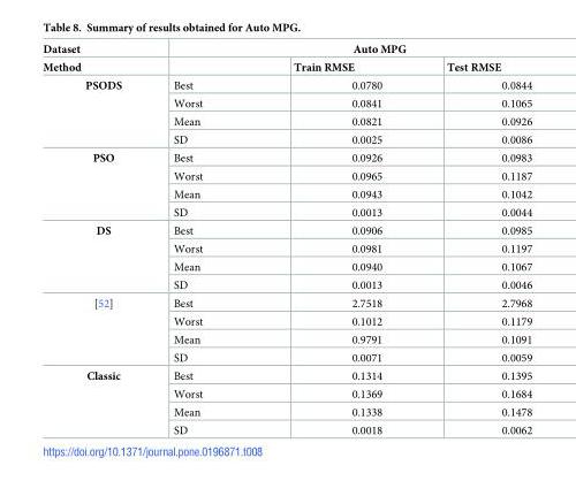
<table><thead><tr><td rowspan="2">Dataset Method</td><td colspan="3">Auto MPG</td></tr><tr><td></td><td>Train RMSE</td><td>Test RMSE</td></tr></thead><tbody><tr><td rowspan="4">PSODS</td><td>Best</td><td>0.0780</td><td>0.0844</td></tr><tr><td>Worst</td><td>0.0841</td><td>0.1065</td></tr><tr><td>Mean</td><td>0.0821</td><td>0.0926</td></tr><tr><td>SD</td><td>0.0025</td><td>0.0086</td></tr><tr><td rowspan="4">PSO</td><td>Best</td><td>0.0926</td><td>0.0983</td></tr><tr><td>Worst</td><td>0.0965</td><td>0.1187</td></tr><tr><td>Mean</td><td>0.0943</td><td>0.1042</td></tr><tr><td>SD</td><td>0.0013</td><td>0.0044</td></tr><tr><td rowspan="4">DS</td><td>Best</td><td>0.0906</td><td>0.0985</td></tr><tr><td>Worst</td><td>0.0981</td><td>0.1197</td></tr><tr><td>Mean</td><td>0.0940</td><td>0.1067</td></tr><tr><td>SD</td><td>0.0013</td><td>0.0046</td></tr><tr><td rowspan="4">[52]</td><td>Best</td><td>2.7518</td><td>2.7968</td></tr><tr><td>Worst</td><td>0.1012</td><td>0.1179</td></tr><tr><td>Mean</td><td>0.9791</td><td>0.1091</td></tr><tr><td>SD</td><td>0.0071</td><td>0.0059</td></tr><tr><td rowspan="4">Classic</td><td>Best</td><td>0.1314</td><td>0.1395</td></tr><tr><td>Worst</td><td>0.1369</td><td>0.1684</td></tr><tr><td>Mean</td><td>0.1338</td><td>0.1478</td></tr><tr><td>SD</td><td>0.0018</td><td>0.0062</td></tr></tbody></table>